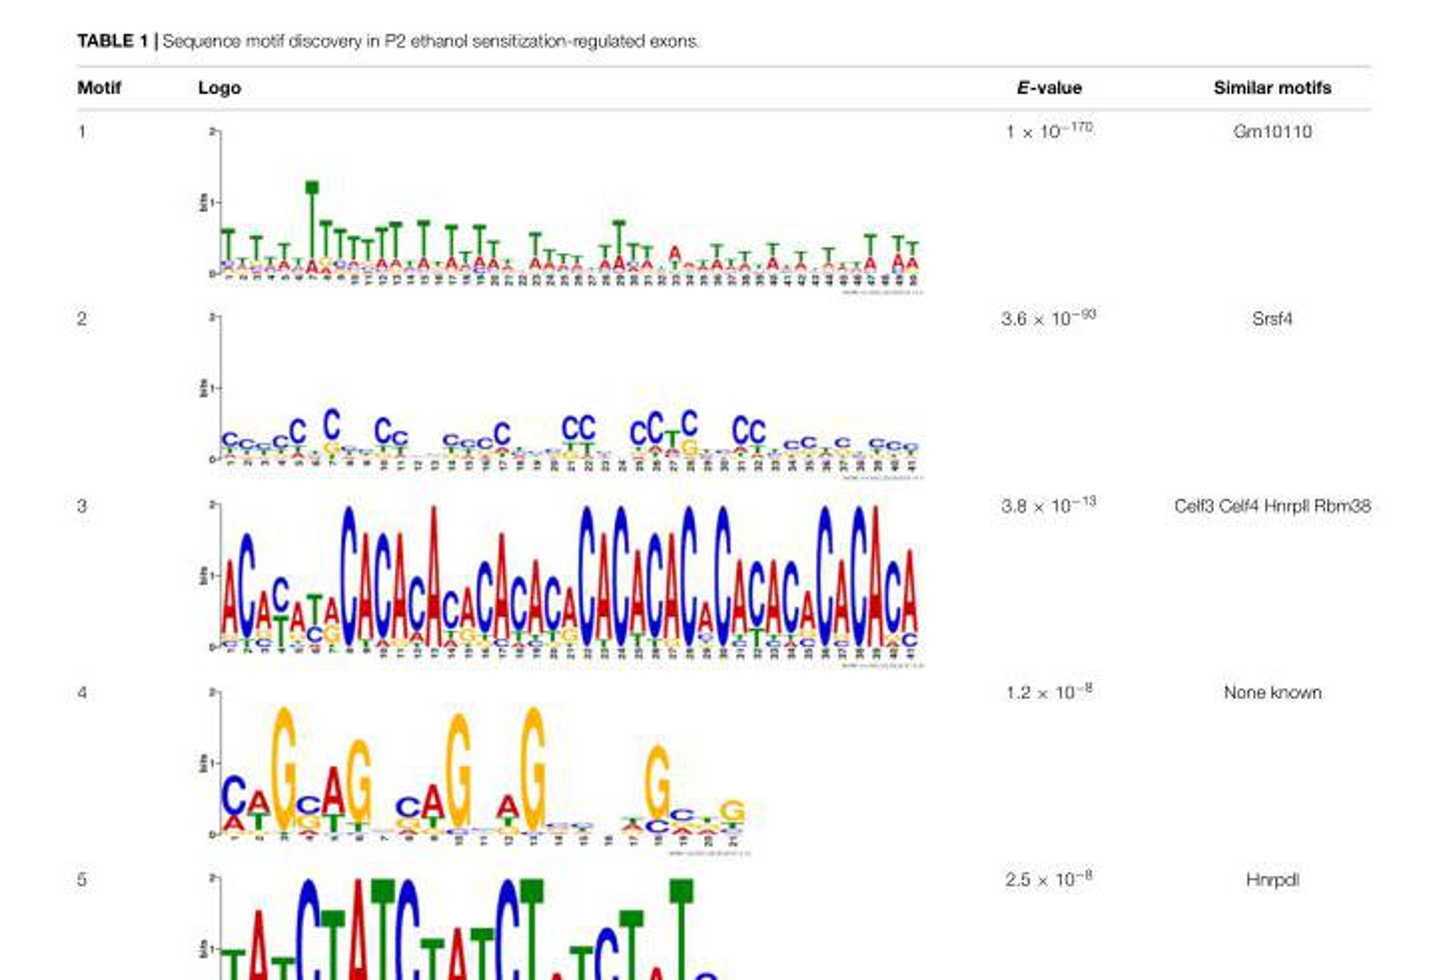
<table><thead><tr><td>Motif</td><td>Logo</td><td>E-value</td><td>Similar motifs</td></tr></thead><tbody><tr><td>1</td><td></td><td>1 × 10<sup>−170</sup></td><td>Gm10110</td></tr><tr><td>2</td><td></td><td>3.6 × 10<sup>−93</sup></td><td>Srsf4</td></tr><tr><td>3</td><td></td><td>3.8 × 10<sup>−13</sup></td><td>Celf3 Celf4 Hnrpll Rbm38</td></tr><tr><td>4</td><td></td><td>1.2 × 10<sup>−8</sup></td><td>None known</td></tr><tr><td>5</td><td></td><td>2.5 × 10<sup>−8</sup></td><td>Hnrpdl</td></tr></tbody></table>